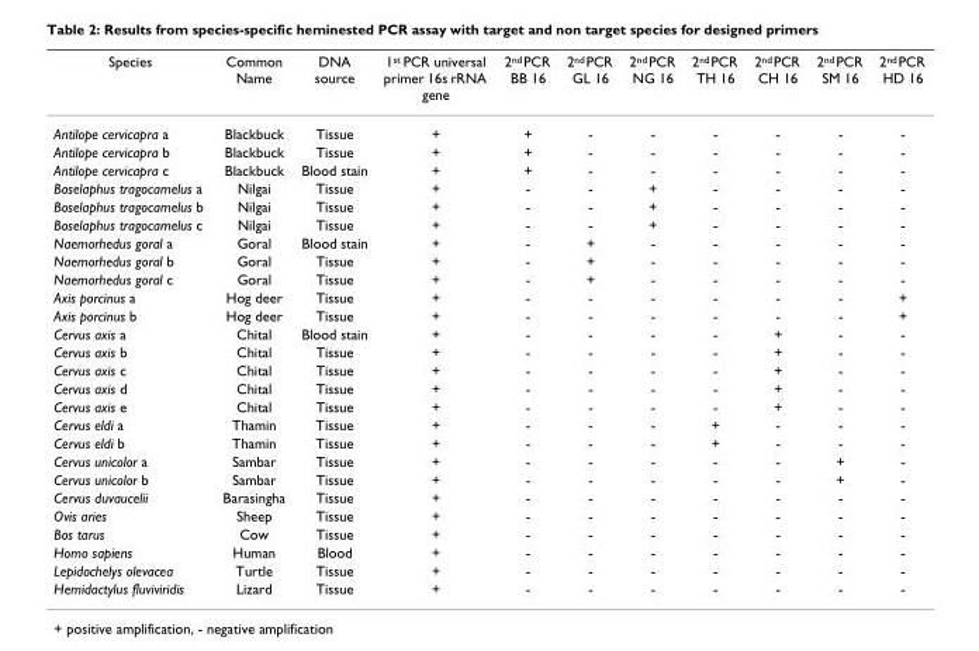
<table><thead><tr><td>Species</td><td>Common Name</td><td>DNA source</td><td>1<sup>st</sup> PCR universal primer 16s rRNA gene</td><td>2<sup>nd</sup> PCR BB 16</td><td>2<sup>nd</sup> PCR GL 16</td><td>2<sup>nd</sup> PCR NG 16</td><td>2<sup>nd</sup> PCR TH 16</td><td>2<sup>nd</sup> PCR CH 16</td><td>2<sup>nd</sup> PCR SM 16</td><td>2<sup>nd</sup> PCR HD 16</td></tr></thead><tbody><tr><td>Antilope cervicapra a</td><td>Blackbuck</td><td>Tissue</td><td>+</td><td>+</td><td>-</td><td>-</td><td>-</td><td>-</td><td>-</td><td>-</td></tr><tr><td>Antilope cervicapra b</td><td>Blackbuck</td><td>Tissue</td><td>+</td><td>+</td><td>-</td><td>-</td><td>-</td><td>-</td><td>-</td><td>-</td></tr><tr><td>Antilope cervicapra c</td><td>Blackbuck</td><td>Blood stain</td><td>+</td><td>+</td><td>-</td><td>-</td><td>-</td><td>-</td><td>-</td><td>-</td></tr><tr><td>Boselaphus tragocamelus a</td><td>Nilgai</td><td>Tissue</td><td>+</td><td>-</td><td>-</td><td>+</td><td>-</td><td>-</td><td>-</td><td>-</td></tr><tr><td>Boselaphus tragocamelus b</td><td>Nilgai</td><td>Tissue</td><td>+</td><td>-</td><td>-</td><td>+</td><td>-</td><td>-</td><td>-</td><td>-</td></tr><tr><td>Boselaphus tragocamelus c</td><td>Nilgai</td><td>Tissue</td><td>+</td><td>-</td><td>-</td><td>+</td><td>-</td><td>-</td><td>-</td><td>-</td></tr><tr><td>Naemorhedus goral a</td><td>Goral</td><td>Blood stain</td><td>+</td><td>-</td><td>+</td><td>-</td><td>-</td><td>-</td><td>-</td><td>-</td></tr><tr><td>Naemorhedus goral b</td><td>Goral</td><td>Tissue</td><td>+</td><td>-</td><td>+</td><td>-</td><td>-</td><td>-</td><td>-</td><td>-</td></tr><tr><td>Naemorhedus goral c</td><td>Goral</td><td>Tissue</td><td>+</td><td>-</td><td>+</td><td>-</td><td>-</td><td>-</td><td>-</td><td>-</td></tr><tr><td>Axis porcinus a</td><td>Hog deer</td><td>Tissue</td><td>+</td><td>-</td><td>-</td><td>-</td><td>-</td><td>-</td><td>-</td><td>+</td></tr><tr><td>Axis porcinus b</td><td>Hog deer</td><td>Tissue</td><td>+</td><td>-</td><td>-</td><td>-</td><td>-</td><td>-</td><td>-</td><td>+</td></tr><tr><td>Cervus axis a</td><td>Chital</td><td>Blood stain</td><td>+</td><td>-</td><td>-</td><td>-</td><td>-</td><td>+</td><td>-</td><td>-</td></tr><tr><td>Cervus axis b</td><td>Chital</td><td>Tissue</td><td>+</td><td>-</td><td>-</td><td>-</td><td>-</td><td>+</td><td>-</td><td>-</td></tr><tr><td>Cervus axis c</td><td>Chital</td><td>Tissue</td><td>+</td><td>-</td><td>-</td><td>-</td><td>-</td><td>+</td><td>-</td><td>-</td></tr><tr><td>Cervus axis d</td><td>Chital</td><td>Tissue</td><td>+</td><td>-</td><td>-</td><td>-</td><td>-</td><td>+</td><td>-</td><td>-</td></tr><tr><td>Cervus axis e</td><td>Chital</td><td>Tissue</td><td>+</td><td>-</td><td>-</td><td>-</td><td>-</td><td>+</td><td>-</td><td>-</td></tr><tr><td>Cervus eldi a</td><td>Thamin</td><td>Tissue</td><td>+</td><td>-</td><td>-</td><td>-</td><td>+</td><td>-</td><td>-</td><td>-</td></tr><tr><td>Cervus eldi b</td><td>Thamin</td><td>Tissue</td><td>+</td><td>-</td><td>-</td><td>-</td><td>+</td><td>-</td><td>-</td><td>-</td></tr><tr><td>Cervus unicolor a</td><td>Sambar</td><td>Tissue</td><td>+</td><td>-</td><td>-</td><td>-</td><td>-</td><td>-</td><td>+</td><td>-</td></tr><tr><td>Cervus unicolor b</td><td>Sambar</td><td>Tissue</td><td>+</td><td>-</td><td>-</td><td>-</td><td>-</td><td>-</td><td>+</td><td>-</td></tr><tr><td>Cervus duvaucelii</td><td>Barasingha</td><td>Tissue</td><td>+</td><td>-</td><td>-</td><td>-</td><td>-</td><td>-</td><td>-</td><td>-</td></tr><tr><td>Ovis aries</td><td>Sheep</td><td>Tissue</td><td>+</td><td>-</td><td>-</td><td>-</td><td>-</td><td>-</td><td>-</td><td>-</td></tr><tr><td>Bos tarus</td><td>Cow</td><td>Tissue</td><td>+</td><td>-</td><td>-</td><td>-</td><td>-</td><td>-</td><td>-</td><td>-</td></tr><tr><td>Homo sapiens</td><td>Human</td><td>Blood</td><td>+</td><td>-</td><td>-</td><td>-</td><td>-</td><td>-</td><td>-</td><td>-</td></tr><tr><td>Lepidochelys olevacea</td><td>Turtle</td><td>Tissue</td><td>+</td><td>-</td><td>-</td><td>-</td><td>-</td><td>-</td><td>-</td><td>-</td></tr><tr><td>Hemidactylus fluviviridis</td><td>Lizard</td><td>Tissue</td><td>+</td><td>-</td><td>-</td><td>-</td><td>-</td><td>-</td><td>-</td><td>-</td></tr></tbody></table>